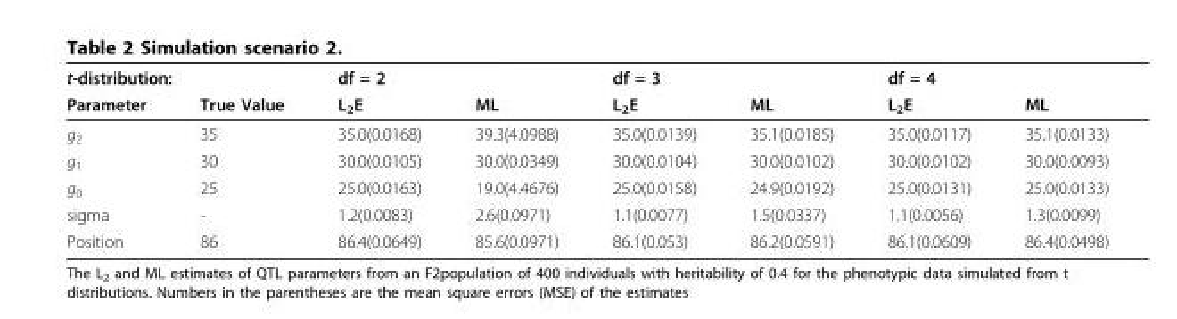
<table><thead><tr><td colspan="2">t-distribution:</td><td rowspan="2">df = 2 L<sub>2</sub>E</td><td rowspan="2">ML</td><td rowspan="2">df = 3 L<sub>2</sub>E</td><td rowspan="2">ML</td><td rowspan="2">df = 4 L<sub>2</sub>E</td><td rowspan="2">ML</td></tr><tr><td>Parameter</td><td>True Value</td></tr></thead><tbody><tr><td>g<sub>2</sub></td><td>35</td><td>35.0(0.0168)</td><td>39.3(4.0988)</td><td>35.0(0.0139)</td><td>35.1(0.0185)</td><td>35.0(0.0117)</td><td>35.1(0.0133)</td></tr><tr><td>g<sub>1</sub></td><td>30</td><td>30.0(0.0105)</td><td>30.0(0.0349)</td><td>30.0(0.0104)</td><td>30.0(0.0102)</td><td>30.0(0.0102)</td><td>30.0(0.0093)</td></tr><tr><td>g<sub>0</sub></td><td>25</td><td>25.0(0.0163)</td><td>19.0(4.4676)</td><td>25.0(0.0158)</td><td>24.9(0.0192)</td><td>25.0(0.0131)</td><td>25.0(0.0133)</td></tr><tr><td>sigma</td><td>-</td><td>1.2(0.0083)</td><td>2.6(0.0971)</td><td>1.1(0.0077)</td><td>1.5(0.0337)</td><td>1.1(0.0056)</td><td>1.3(0.0099)</td></tr><tr><td>Position</td><td>86</td><td>86.4(0.0649)</td><td>85.6(0.0971)</td><td>86.1(0.053)</td><td>86.2(0.0591)</td><td>86.1(0.0609)</td><td>86.4(0.0498)</td></tr></tbody></table>